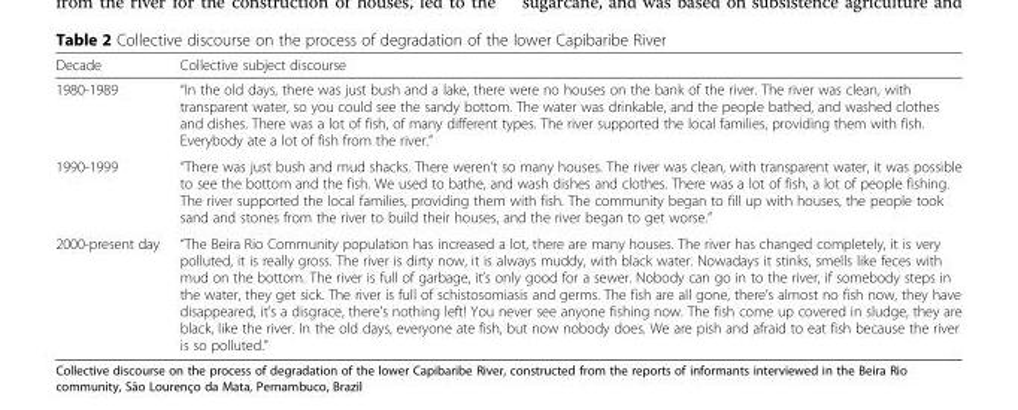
<table><thead><tr><td>Decade</td><td>Collective subject discourse</td></tr></thead><tbody><tr><td>1980-1989</td><td>“In the old days, there was just bush and a lake, there were no houses on the bank of the river. The river was clean, with transparent water, so you could see the sandy bottom. The water was drinkable, and the people bathed, and washed clothes and dishes. There was a lot of fish, of many different types. The river supported the local families, providing them with fish. Everybody ate a lot of fish from the river.”</td></tr><tr><td>1990-1999</td><td>“There was just bush and mud shacks. There weren’t so many houses. The river was clean, with transparent water, it was possible to see the bottom and the fish. We used to bathe, and wash dishes and clothes. There was a lot of fish, a lot of people fishing. The river supported the local families, providing them with fish. The community began to fill up with houses, the people took sand and stones from the river to build their houses, and the river began to get worse.”</td></tr><tr><td>2000-present day</td><td>“The Beira Rio Community population has increased a lot, there are many houses. The river has changed completely, it is very polluted, it is really gross. The river is dirty now, it is always muddy, with black water. Nowadays it stinks, smells like feces with mud on the bottom. The river is full of garbage, it’s only good for a sewer. Nobody can go in to the river, if somebody steps in the water, they get sick. The river is full of schistosomiasis and germs. The fish are all gone, there’s almost no fish now, they have disappeared, it’s a disgrace, there’s nothing left! You never see anyone fishing now. The fish come up covered in sludge, they are black, like the river. In the old days, everyone ate fish, but now nobody does. We are pish and afraid to eat fish because the river is so polluted.”</td></tr></tbody></table>